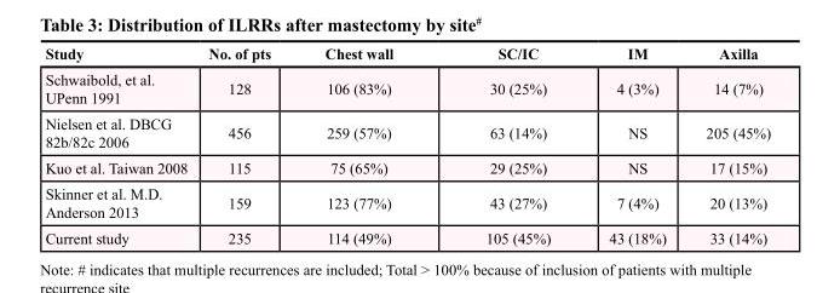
<table><thead><tr><td>Study</td><td>No. of pts</td><td>Chest wall</td><td>SC/IC</td><td>IM</td><td>Axilla</td></tr></thead><tbody><tr><td>Schwaibold, et al. UPenn 1991</td><td>128</td><td>106 (83%)</td><td>30 (25%)</td><td>4 (3%)</td><td>14 (7%)</td></tr><tr><td>Nielsen et al. DBCG 82b/82c 2006</td><td>456</td><td>259 (57%)</td><td>63 (14%)</td><td>NS</td><td>205 (45%)</td></tr><tr><td>Kuo et al. Taiwan 2008</td><td>115</td><td>75 (65%)</td><td>29 (25%)</td><td>NS</td><td>17 (15%)</td></tr><tr><td>Skinner et al. M.D. Anderson 2013</td><td>159</td><td>123 (77%)</td><td>43 (27%)</td><td>7 (4%)</td><td>20 (13%)</td></tr><tr><td>Current study</td><td>235</td><td>114 (49%)</td><td>105 (45%)</td><td>43 (18%)</td><td>33 (14%)</td></tr></tbody></table>